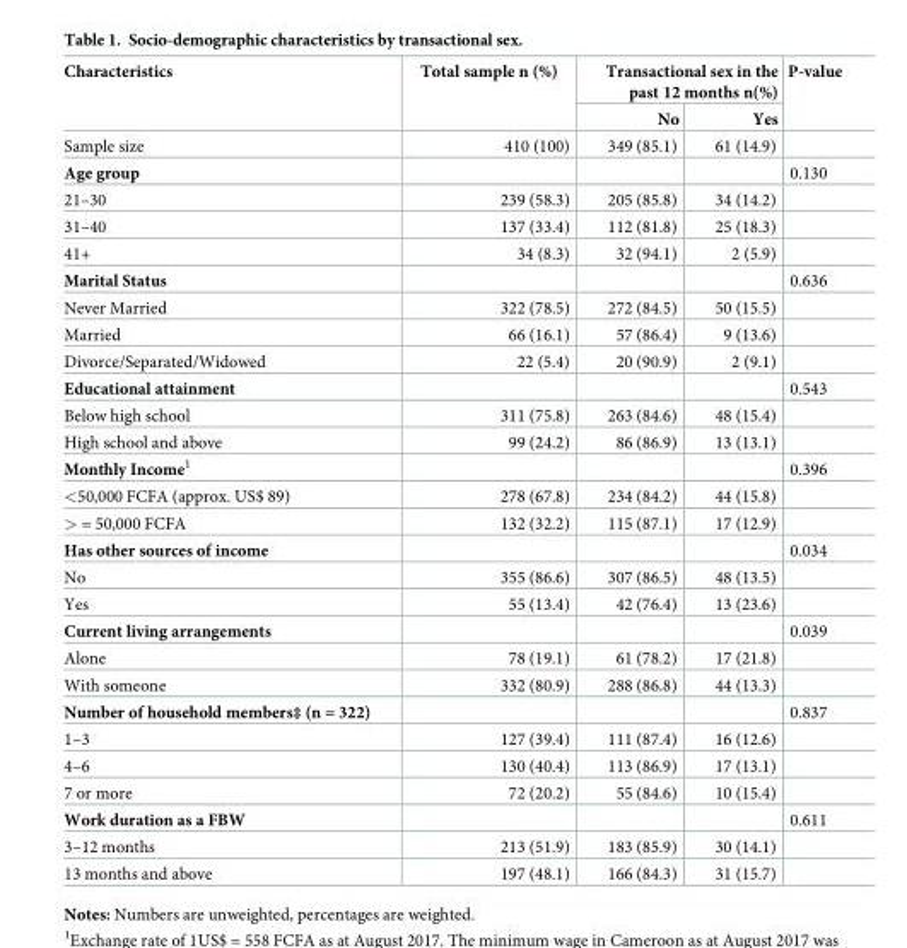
<table><thead><tr><td rowspan="2">Characteristics</td><td rowspan="2">Total sample n (%)</td><td colspan="2">Transactional sex in the past 12 months n(%)</td><td rowspan="2">P-value</td></tr><tr><td>No</td><td>Yes</td></tr></thead><tbody><tr><td>Sample size</td><td>410 (100)</td><td>349 (85.1)</td><td>61 (14.9)</td><td></td></tr><tr><td>Age group</td><td></td><td></td><td></td><td>0.130</td></tr><tr><td>21–30</td><td>239 (58.3)</td><td>205 (85.8)</td><td>34 (14.2)</td><td></td></tr><tr><td>31–40</td><td>137 (33.4)</td><td>112 (81.8)</td><td>25 (18.3)</td><td></td></tr><tr><td>41+</td><td>34 (8.3)</td><td>32 (94.1)</td><td>2 (5.9)</td><td></td></tr><tr><td>Marital Status</td><td></td><td></td><td></td><td>0.636</td></tr><tr><td>Never Married</td><td>322 (78.5)</td><td>272 (84.5)</td><td>50 (15.5)</td><td></td></tr><tr><td>Married</td><td>66 (16.1)</td><td>57 (86.4)</td><td>9 (13.6)</td><td></td></tr><tr><td>Divorce/Separated/Widowed</td><td>22 (5.4)</td><td>20 (90.9)</td><td>2 (9.1)</td><td></td></tr><tr><td>Educational attainment</td><td></td><td></td><td></td><td>0.543</td></tr><tr><td>Below high school</td><td>311 (75.8)</td><td>263 (84.6)</td><td>48 (15.4)</td><td></td></tr><tr><td>High school and above</td><td>99 (24.2)</td><td>86 (86.9)</td><td>13 (13.1)</td><td></td></tr><tr><td>Monthly Income<sup>1</sup></td><td></td><td></td><td></td><td>0.396</td></tr><tr><td>&lt;50,000 FCFA (approx. US$ 89)</td><td>278 (67.8)</td><td>234 (84.2)</td><td>44 (15.8)</td><td></td></tr><tr><td>&gt; = 50,000 FCFA</td><td>132 (32.2)</td><td>115 (87.1)</td><td>17 (12.9)</td><td></td></tr><tr><td>Has other sources of income</td><td></td><td></td><td></td><td>0.034</td></tr><tr><td>No</td><td>355 (86.6)</td><td>307 (86.5)</td><td>48 (13.5)</td><td></td></tr><tr><td>Yes</td><td>55 (13.4)</td><td>42 (76.4)</td><td>13 (23.6)</td><td></td></tr><tr><td>Current living arrangements</td><td></td><td></td><td></td><td>0.039</td></tr><tr><td>Alone</td><td>78 (19.1)</td><td>61 (78.2)</td><td>17 (21.8)</td><td></td></tr><tr><td>With someone</td><td>332 (80.9)</td><td>288 (86.8)</td><td>44 (13.3)</td><td></td></tr><tr><td>Number of household members‡ (n = 322)</td><td></td><td></td><td></td><td>0.837</td></tr><tr><td>1–3</td><td>127 (39.4)</td><td>111 (87.4)</td><td>16 (12.6)</td><td></td></tr><tr><td>4–6</td><td>130 (40.4)</td><td>113 (86.9)</td><td>17 (13.1)</td><td></td></tr><tr><td>7 or more</td><td>72 (20.2)</td><td>55 (84.6)</td><td>10 (15.4)</td><td></td></tr><tr><td>Work duration as a FBW</td><td></td><td></td><td></td><td>0.611</td></tr><tr><td>3–12 months</td><td>213 (51.9)</td><td>183 (85.9)</td><td>30 (14.1)</td><td></td></tr><tr><td>13 months and above</td><td>197 (48.1)</td><td>166 (84.3)</td><td>31 (15.7)</td><td></td></tr></tbody></table>